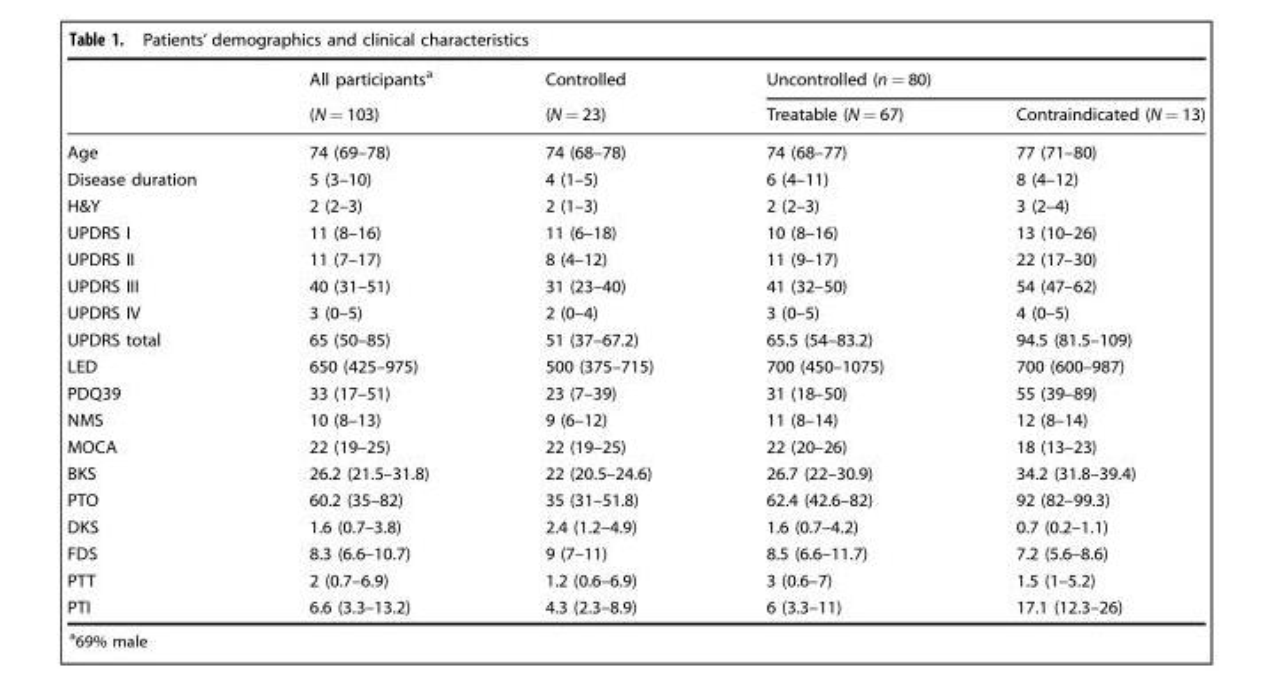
<table><thead><tr><td rowspan="2"></td><td rowspan="2">All participants<sup>a</sup> (N = 103)</td><td rowspan="2">Controlled (N = 23)</td><td colspan="2">Uncontrolled (n = 80)</td></tr><tr><td>Treatable (N = 67)</td><td>Contraindicated (N = 13)</td></tr></thead><tbody><tr><td>Age</td><td>74 (69–78)</td><td>74 (68–78)</td><td>74 (68–77)</td><td>77 (71–80)</td></tr><tr><td>Disease duration</td><td>5 (3–10)</td><td>4 (1–5)</td><td>6 (4–11)</td><td>8 (4–12)</td></tr><tr><td>H&amp;Y</td><td>2 (2–3)</td><td>2 (1–3)</td><td>2 (2–3)</td><td>3 (2–4)</td></tr><tr><td>UPDRS I</td><td>11 (8–16)</td><td>11 (6–18)</td><td>10 (8–16)</td><td>13 (10–26)</td></tr><tr><td>UPDRS II</td><td>11 (7–17)</td><td>8 (4–12)</td><td>11 (9–17)</td><td>22 (17–30)</td></tr><tr><td>UPDRS III</td><td>40 (31–51)</td><td>31 (23–40)</td><td>41 (32–50)</td><td>54 (47–62)</td></tr><tr><td>UPDRS IV</td><td>3 (0–5)</td><td>2 (0–4)</td><td>3 (0–5)</td><td>4 (0–5)</td></tr><tr><td>UPDRS total</td><td>65 (50–85)</td><td>51 (37–67.2)</td><td>65.5 (54–83.2)</td><td>94.5 (81.5–109)</td></tr><tr><td>LED</td><td>650 (425–975)</td><td>500 (375–715)</td><td>700 (450–1075)</td><td>700 (600–987)</td></tr><tr><td>PDQ39</td><td>33 (17–51)</td><td>23 (7–39)</td><td>31 (18–50)</td><td>55 (39–89)</td></tr><tr><td>NMS</td><td>10 (8–13)</td><td>9 (6–12)</td><td>11 (8–14)</td><td>12 (8–14)</td></tr><tr><td>MOCA</td><td>22 (19–25)</td><td>22 (19–25)</td><td>22 (20–26)</td><td>18 (13–23)</td></tr><tr><td>BKS</td><td>26.2 (21.5–31.8)</td><td>22 (20.5–24.6)</td><td>26.7 (22–30.9)</td><td>34.2 (31.8–39.4)</td></tr><tr><td>PTO</td><td>60.2 (35–82)</td><td>35 (31–51.8)</td><td>62.4 (42.6–82)</td><td>92 (82–99.3)</td></tr><tr><td>DKS</td><td>1.6 (0.7–3.8)</td><td>2.4 (1.2–4.9)</td><td>1.6 (0.7–4.2)</td><td>0.7 (0.2–1.1)</td></tr><tr><td>FDS</td><td>8.3 (6.6–10.7)</td><td>9 (7–11)</td><td>8.5 (6.6–11.7)</td><td>7.2 (5.6–8.6)</td></tr><tr><td>PTT</td><td>2 (0.7–6.9)</td><td>1.2 (0.6–6.9)</td><td>3 (0.6–7)</td><td>1.5 (1–5.2)</td></tr><tr><td>PTI</td><td>6.6 (3.3–13.2)</td><td>4.3 (2.3–8.9)</td><td>6 (3.3–11)</td><td>17.1 (12.3–26)</td></tr></tbody></table>